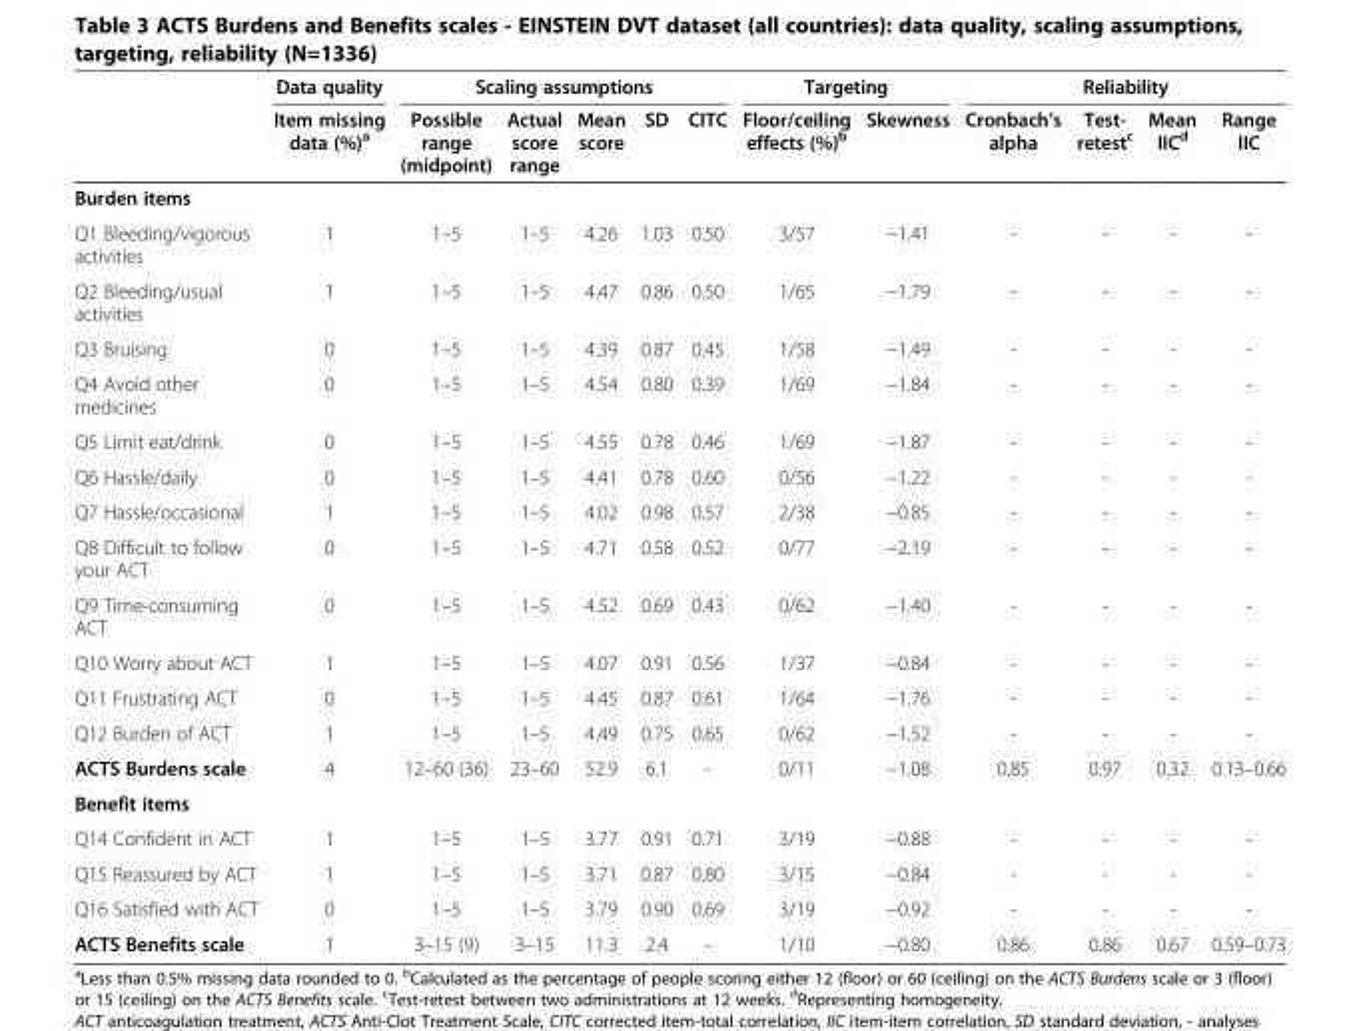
<table><thead><tr><td rowspan="2"></td><td rowspan="2">Data quality Item missing data (%)<sup>a</sup></td><td colspan="5">Scaling assumptions</td><td colspan="2">Targeting</td><td colspan="4">Reliability</td></tr><tr><td>Possible range (midpoint)</td><td>Actual score range</td><td>Mean score</td><td>SD</td><td>CITC</td><td>Floor/ceiling effects (%)<sup>b</sup></td><td>Skewness</td><td>Cronbach’s alpha</td><td>Test- retest<sup>c</sup></td><td>Mean IIC<sup>d</sup></td><td>Range IIC</td></tr></thead><tbody><tr><td colspan="13">Burden items</td></tr><tr><td>Q1 Bleeding/vigorous activities</td><td>1</td><td>1–5</td><td>1–5</td><td>4.26</td><td>1.03</td><td>0.50</td><td>3/57</td><td>−1.41</td><td>-</td><td>-</td><td>-</td><td>-</td></tr><tr><td>Q2 Bleeding/usual activities</td><td>1</td><td>1–5</td><td>1–5</td><td>4.47</td><td>0.86</td><td>0.50</td><td>1/65</td><td>−1.79</td><td>-</td><td>-</td><td>-</td><td>-</td></tr><tr><td>Q3 Bruising</td><td>0</td><td>1–5</td><td>1–5</td><td>4.39</td><td>0.87</td><td>0.45</td><td>1/58</td><td>−1.49</td><td>-</td><td>-</td><td>-</td><td>-</td></tr><tr><td>Q4 Avoid other medicines</td><td>0</td><td>1–5</td><td>1–5</td><td>4.54</td><td>0.80</td><td>0.39</td><td>1/69</td><td>−1.84</td><td>-</td><td>-</td><td>-</td><td>-</td></tr><tr><td>Q5 Limit eat/drink</td><td>0</td><td>1–5</td><td>1–5</td><td>4.55</td><td>0.78</td><td>0.46</td><td>1/69</td><td>−1.87</td><td>-</td><td>-</td><td>-</td><td>-</td></tr><tr><td>Q6 Hassle/daily</td><td>0</td><td>1–5</td><td>1–5</td><td>4.41</td><td>0.78</td><td>0.60</td><td>0/56</td><td>−1.22</td><td>-</td><td>-</td><td>-</td><td>-</td></tr><tr><td>Q7 Hassle/occasional</td><td>1</td><td>1–5</td><td>1–5</td><td>4.02</td><td>0.98</td><td>0.57</td><td>2/38</td><td>−0.85</td><td>-</td><td>-</td><td>-</td><td>-</td></tr><tr><td>Q8 Difficult to follow your ACT</td><td>0</td><td>1–5</td><td>1–5</td><td>4.71</td><td>0.58</td><td>0.52</td><td>0/77</td><td>−2.19</td><td>-</td><td>-</td><td>-</td><td>-</td></tr><tr><td>Q9 Time-consuming ACT</td><td>0</td><td>1–5</td><td>1–5</td><td>4.52</td><td>0.69</td><td>0.43</td><td>0/62</td><td>−1.40</td><td>-</td><td>-</td><td>-</td><td>-</td></tr><tr><td>Q10 Worry about ACT</td><td>1</td><td>1–5</td><td>1–5</td><td>4.07</td><td>0.91</td><td>0.56</td><td>1/37</td><td>−0.84</td><td>-</td><td>-</td><td>-</td><td>-</td></tr><tr><td>Q11 Frustrating ACT</td><td>0</td><td>1–5</td><td>1–5</td><td>4.45</td><td>0.87</td><td>0.61</td><td>1/64</td><td>−1.76</td><td>-</td><td>-</td><td>-</td><td>-</td></tr><tr><td>Q12 Burden of ACT</td><td>1</td><td>1–5</td><td>1–5</td><td>4.49</td><td>0.75</td><td>0.65</td><td>0/62</td><td>−1.52</td><td>-</td><td>-</td><td>-</td><td>-</td></tr><tr><td>ACTS Burdens scale</td><td>4</td><td>12–60 (36)</td><td>23–60</td><td>52.9</td><td>6.1</td><td>-</td><td>0/11</td><td>−1.08</td><td>0.85</td><td>0.97</td><td>0.32</td><td>0.13–0.66</td></tr><tr><td colspan="13">Benefit items</td></tr><tr><td>Q14 Confident in ACT</td><td>1</td><td>1–5</td><td>1–5</td><td>3.77</td><td>0.91</td><td>0.71</td><td>3/19</td><td>−0.88</td><td>-</td><td>-</td><td>-</td><td>-</td></tr><tr><td>Q15 Reassured by ACT</td><td>1</td><td>1–5</td><td>1–5</td><td>3.71</td><td>0.87</td><td>0.80</td><td>3/15</td><td>−0.84</td><td>-</td><td>-</td><td>-</td><td>-</td></tr><tr><td>Q16 Satisfied with ACT</td><td>0</td><td>1–5</td><td>1–5</td><td>3.79</td><td>0.90</td><td>0.69</td><td>3/19</td><td>−0.92</td><td>-</td><td>-</td><td>-</td><td>-</td></tr><tr><td>ACTS Benefits scale</td><td>1</td><td>3–15 (9)</td><td>3–15</td><td>11.3</td><td>2.4</td><td>-</td><td>1/10</td><td>−0.80</td><td>0.86</td><td>0.86</td><td>0.67</td><td>0.59–0.73</td></tr></tbody></table>